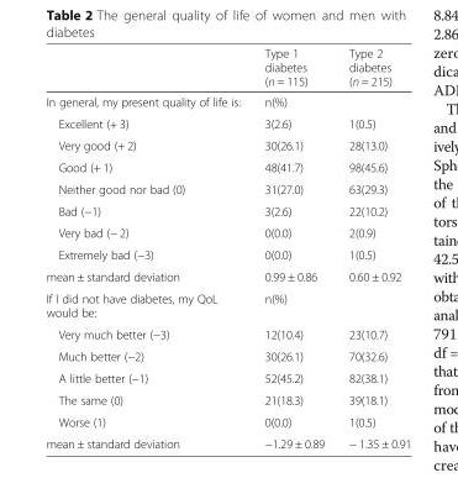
<table><thead><tr><td></td><td>Type 1 diabetes (n = 115)</td><td>Type 2 diabetes (n = 215)</td></tr></thead><tbody><tr><td>In general, my present quality of life is:</td><td colspan="2">n(%)</td></tr><tr><td>Excellent (+ 3)</td><td>3(2.6)</td><td>1(0.5)</td></tr><tr><td>Very good (+ 2)</td><td>30(26.1)</td><td>28(13.0)</td></tr><tr><td>Good (+ 1)</td><td>48(41.7)</td><td>98(45.6)</td></tr><tr><td>Neither good nor bad (0)</td><td>31(27.0)</td><td>63(29.3)</td></tr><tr><td>Bad (−1)</td><td>3(2.6)</td><td>22(10.2)</td></tr><tr><td>Very bad (− 2)</td><td>0(0.0)</td><td>2(0.9)</td></tr><tr><td>Extremely bad (−3)</td><td>0(0.0)</td><td>1(0.5)</td></tr><tr><td>mean ± standard deviation</td><td>0.99 ± 0.86</td><td>0.60 ± 0.92</td></tr><tr><td>If I did not have diabetes, my QoL would be:</td><td colspan="2">n(%)</td></tr><tr><td>Very much better (−3)</td><td>12(10.4)</td><td>23(10.7)</td></tr><tr><td>Much better (−2)</td><td>30(26.1)</td><td>70(32.6)</td></tr><tr><td>A little better (−1)</td><td>52(45.2)</td><td>82(38.1)</td></tr><tr><td>The same (0)</td><td>21(18.3)</td><td>39(18.1)</td></tr><tr><td>Worse (1)</td><td>0(0.0)</td><td>1(0.5)</td></tr><tr><td>mean ± standard deviation</td><td>−1.29 ± 0.89</td><td>− 1.35 ± 0.91</td></tr></tbody></table>